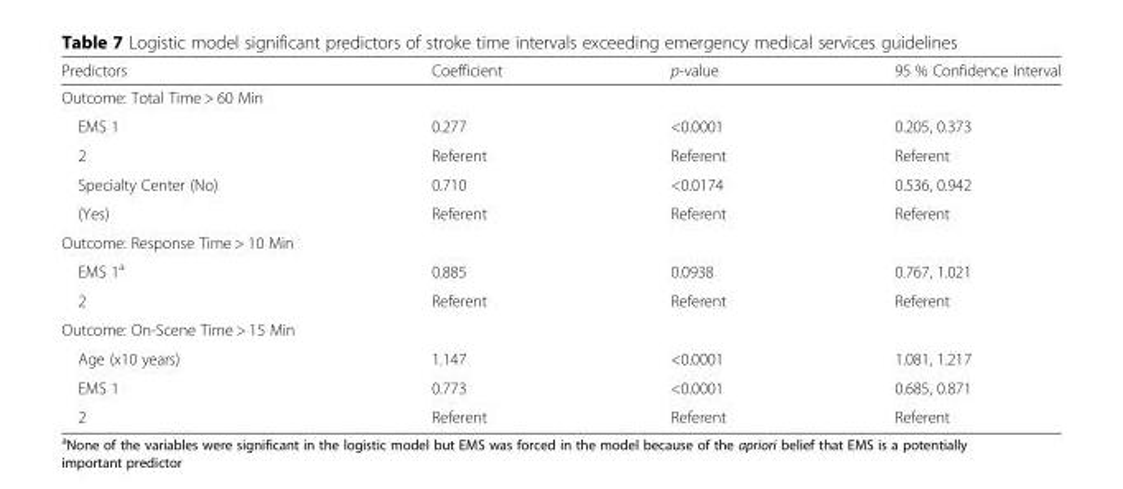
<table><thead><tr><td>Predictors</td><td>Coefficient</td><td>p-value</td><td>95 % Confidence Interval</td></tr></thead><tbody><tr><td colspan="4">Outcome: Total Time &gt; 60 Min</td></tr><tr><td>EMS 1</td><td>0.277</td><td>&lt;0.0001</td><td>0.205, 0.373</td></tr><tr><td>2</td><td>Referent</td><td>Referent</td><td>Referent</td></tr><tr><td>Specialty Center (No)</td><td>0.710</td><td>&lt;0.0174</td><td>0.536, 0.942</td></tr><tr><td>(Yes)</td><td>Referent</td><td>Referent</td><td>Referent</td></tr><tr><td colspan="4">Outcome: Response Time &gt; 10 Min</td></tr><tr><td>EMS 1<sup>a</sup></td><td>0.885</td><td>0.0938</td><td>0.767, 1.021</td></tr><tr><td>2</td><td>Referent</td><td>Referent</td><td>Referent</td></tr><tr><td colspan="4">Outcome: On-Scene Time &gt; 15 Min</td></tr><tr><td>Age (x10 years)</td><td>1.147</td><td>&lt;0.0001</td><td>1.081, 1.217</td></tr><tr><td>EMS 1</td><td>0.773</td><td>&lt;0.0001</td><td>0.685, 0.871</td></tr><tr><td>2</td><td>Referent</td><td>Referent</td><td>Referent</td></tr></tbody></table>